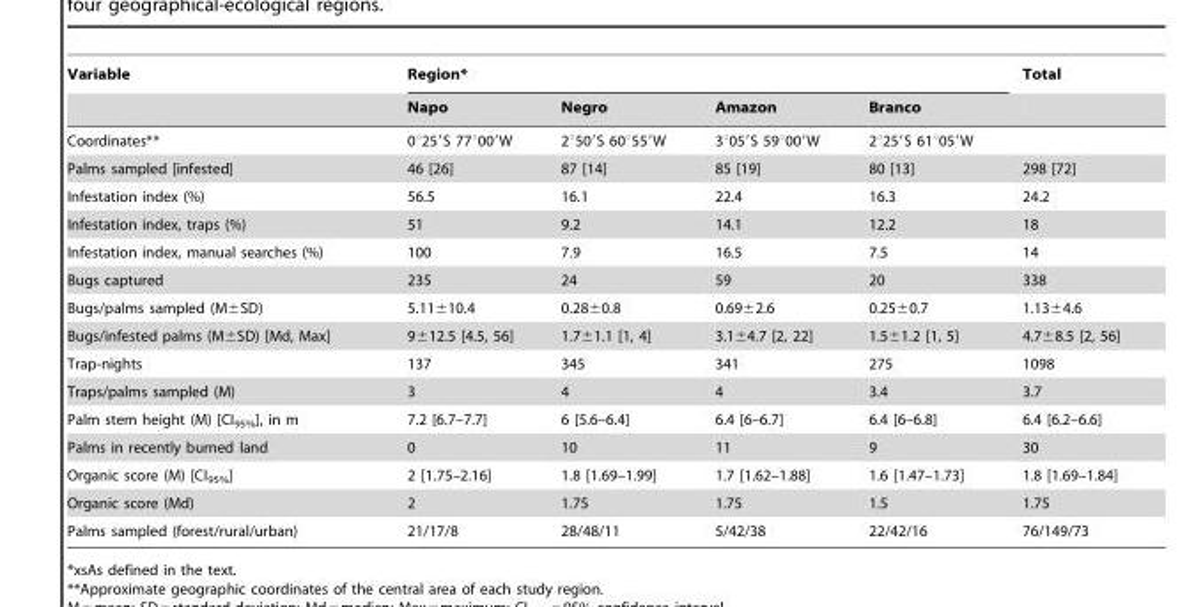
<table><thead><tr><td rowspan="2">Variable</td><td colspan="4">Region*</td><td rowspan="2">Total</td></tr><tr><td>Napo</td><td>Negro</td><td>Amazon</td><td>Branco</td></tr></thead><tbody><tr><td>Coordinates**</td><td>0°25′S 77°00′W</td><td>2°50′S 60°55′W</td><td>3°05′S 59°00′W</td><td>2°25′S 61°05′W</td><td></td></tr><tr><td>Palms sampled [infested]</td><td>46 [26]</td><td>87 [14]</td><td>85 [19]</td><td>80 [13]</td><td>298 [72]</td></tr><tr><td>Infestation index (%)</td><td>56.5</td><td>16.1</td><td>22.4</td><td>16.3</td><td>24.2</td></tr><tr><td>Infestation index, traps (%)</td><td>51</td><td>9.2</td><td>14.1</td><td>12.2</td><td>18</td></tr><tr><td>Infestation index, manual searches (%)</td><td>100</td><td>7.9</td><td>16.5</td><td>7.5</td><td>14</td></tr><tr><td>Bugs captured</td><td>235</td><td>24</td><td>59</td><td>20</td><td>338</td></tr><tr><td>Bugs/palms sampled (M±SD)</td><td>5.11±10.4</td><td>0.28±0.8</td><td>0.69±2.6</td><td>0.25±0.7</td><td>1.13±4.6</td></tr><tr><td>Bugs/infested palms (M±SD) [Md, Max]</td><td>9±12.5 [4.5, 56]</td><td>1.7±1.1 [1, 4]</td><td>3.1±4.7 [2, 22]</td><td>1.5±1.2 [1, 5]</td><td>4.7±8.5 [2, 56]</td></tr><tr><td>Trap-nights</td><td>137</td><td>345</td><td>341</td><td>275</td><td>1098</td></tr><tr><td>Traps/palms sampled (M)</td><td>3</td><td>4</td><td>4</td><td>3.4</td><td>3.7</td></tr><tr><td>Palm stem height (M) [CI<sub>95%</sub>], in m</td><td>7.2 [6.7–7.7]</td><td>6 [5.6–6.4]</td><td>6.4 [6–6.7]</td><td>6.4 [6–6.8]</td><td>6.4 [6.2–6.6]</td></tr><tr><td>Palms in recently burned land</td><td>0</td><td>10</td><td>11</td><td>9</td><td>30</td></tr><tr><td>Organic score (M) [CI<sub>95%</sub>]</td><td>2 [1.75–2.16]</td><td>1.8 [1.69–1.99]</td><td>1.7 [1.62–1.88]</td><td>1.6 [1.47–1.73]</td><td>1.8 [1.69–1.84]</td></tr><tr><td>Organic score (Md)</td><td>2</td><td>1.75</td><td>1.75</td><td>1.5</td><td>1.75</td></tr><tr><td>Palms sampled (forest/rural/urban)</td><td>21/17/8</td><td>28/48/11</td><td>5/42/38</td><td>22/42/16</td><td>76/149/73</td></tr></tbody></table>